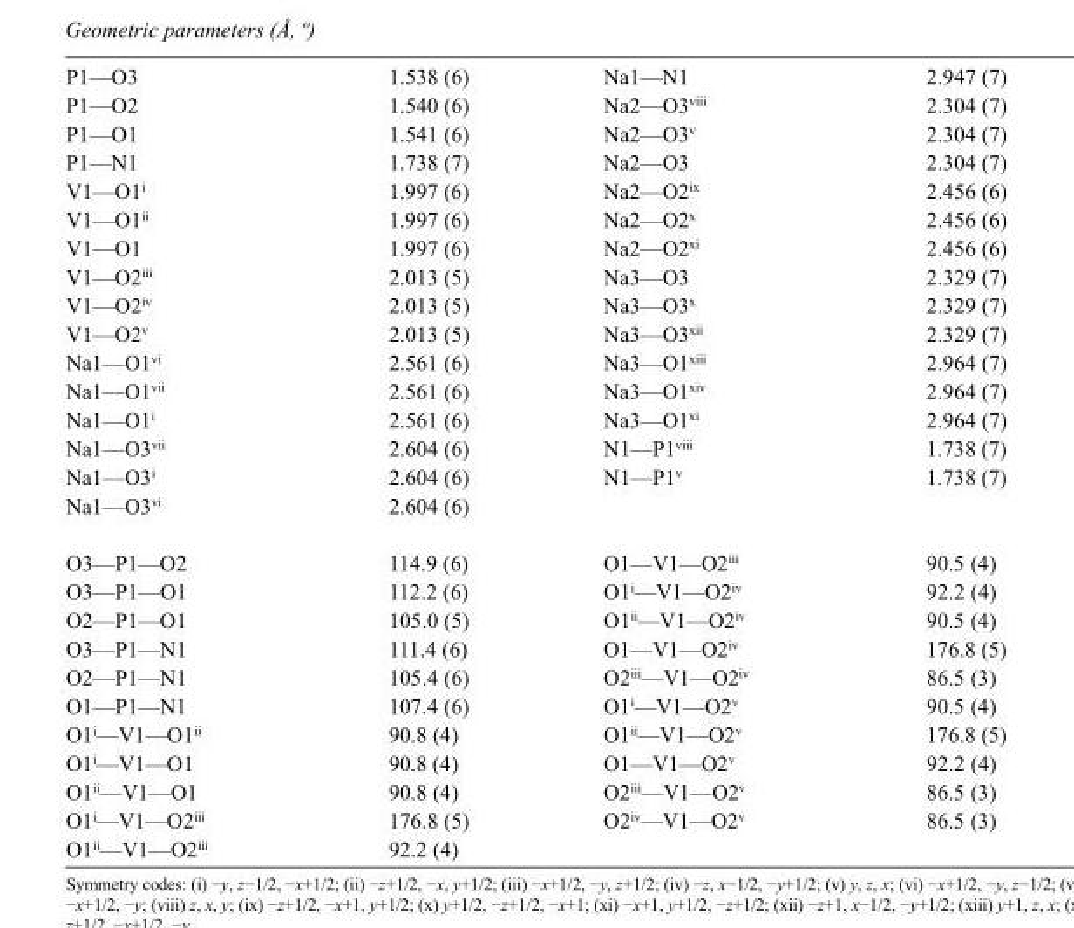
<table><tbody><tr><td>P1—O3</td><td>1.538 (6)</td><td>Na1—N1</td><td>2.947 (7)</td></tr><tr><td>P1—O2</td><td>1.540 (6)</td><td>Na2—O3<sup>viii</sup></td><td>2.304 (7)</td></tr><tr><td>P1—O1</td><td>1.541 (6)</td><td>Na2—O3<sup>v</sup></td><td>2.304 (7)</td></tr><tr><td>P1—N1</td><td>1.738 (7)</td><td>Na2—O3</td><td>2.304 (7)</td></tr><tr><td>V1—O1<sup>i</sup></td><td>1.997 (6)</td><td>Na2—O2<sup>ix</sup></td><td>2.456 (6)</td></tr><tr><td>V1—O1<sup>ii</sup></td><td>1.997 (6)</td><td>Na2—O2<sup>x</sup></td><td>2.456 (6)</td></tr><tr><td>V1—O1</td><td>1.997 (6)</td><td>Na2—O2<sup>xi</sup></td><td>2.456 (6)</td></tr><tr><td>V1—O2<sup>iii</sup></td><td>2.013 (5)</td><td>Na3—O3</td><td>2.329 (7)</td></tr><tr><td>V1—O2<sup>iv</sup></td><td>2.013 (5)</td><td>Na3—O3<sup>x</sup></td><td>2.329 (7)</td></tr><tr><td>V1—O2<sup>v</sup></td><td>2.013 (5)</td><td>Na3—O3<sup>xii</sup></td><td>2.329 (7)</td></tr><tr><td>Na1—O1<sup>vi</sup></td><td>2.561 (6)</td><td>Na3—O1<sup>xiii</sup></td><td>2.964 (7)</td></tr><tr><td>Na1—O1<sup>vii</sup></td><td>2.561 (6)</td><td>Na3—O1<sup>xiv</sup></td><td>2.964 (7)</td></tr><tr><td>Na1—O1<sup>i</sup></td><td>2.561 (6)</td><td>Na3—O1<sup>xi</sup></td><td>2.964 (7)</td></tr><tr><td>Na1—O3<sup>vii</sup></td><td>2.604 (6)</td><td>N1—P1<sup>viii</sup></td><td>1.738 (7)</td></tr><tr><td>Na1—O3<sup>i</sup></td><td>2.604 (6)</td><td>N1—P1<sup>v</sup></td><td>1.738 (7)</td></tr><tr><td>Na1—O3<sup>vi</sup></td><td>2.604 (6)</td><td></td><td></td></tr><tr><td>O3—P1—O2</td><td>114.9 (6)</td><td>O1—V1—O2<sup>iii</sup></td><td>90.5 (4)</td></tr><tr><td>O3—P1—O1</td><td>112.2 (6)</td><td>O1<sup>i</sup>—V1—O2<sup>iv</sup></td><td>92.2 (4)</td></tr><tr><td>O2—P1—O1</td><td>105.0 (5)</td><td>O1<sup>ii</sup>—V1—O2<sup>iv</sup></td><td>90.5 (4)</td></tr><tr><td>O3—P1—N1</td><td>111.4 (6)</td><td>O1—V1—O2<sup>iv</sup></td><td>176.8 (5)</td></tr><tr><td>O2—P1—N1</td><td>105.4 (6)</td><td>O2<sup>iii</sup>—V1—O2<sup>iv</sup></td><td>86.5 (3)</td></tr><tr><td>O1—P1—N1</td><td>107.4 (6)</td><td>O1<sup>i</sup>—V1—O2<sup>v</sup></td><td>90.5 (4)</td></tr><tr><td>O1<sup>i</sup>—V1—O1<sup>ii</sup></td><td>90.8 (4)</td><td>O1<sup>ii</sup>—V1—O2<sup>v</sup></td><td>176.8 (5)</td></tr><tr><td>O1<sup>i</sup>—V1—O1</td><td>90.8 (4)</td><td>O1—V1—O2<sup>v</sup></td><td>92.2 (4)</td></tr><tr><td>O1<sup>ii</sup>—V1—O1</td><td>90.8 (4)</td><td>O2<sup>iii</sup>—V1—O2<sup>v</sup></td><td>86.5 (3)</td></tr><tr><td>O1<sup>i</sup>—V1—O2<sup>iii</sup></td><td>176.8 (5)</td><td>O2<sup>iv</sup>—V1—O2<sup>v</sup></td><td>86.5 (3)</td></tr><tr><td>O1<sup>ii</sup>—V1—O2<sup>iii</sup></td><td>92.2 (4)</td><td></td><td></td></tr></tbody></table>